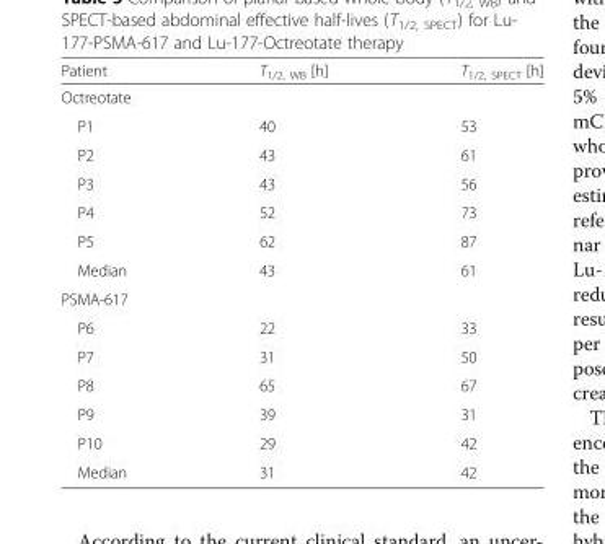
<table><thead><tr><td>Patient</td><td>T<sub>1/2, WB</sub> [h]</td><td>T<sub>1/2, SPECT</sub> [h]</td></tr></thead><tbody><tr><td colspan="3">Octreotate</td></tr><tr><td>P1</td><td>40</td><td>53</td></tr><tr><td>P2</td><td>43</td><td>61</td></tr><tr><td>P3</td><td>43</td><td>56</td></tr><tr><td>P4</td><td>52</td><td>73</td></tr><tr><td>P5</td><td>62</td><td>87</td></tr><tr><td>Median</td><td>43</td><td>61</td></tr><tr><td colspan="3">PSMA-617</td></tr><tr><td>P6</td><td>22</td><td>33</td></tr><tr><td>P7</td><td>31</td><td>50</td></tr><tr><td>P8</td><td>65</td><td>67</td></tr><tr><td>P9</td><td>39</td><td>31</td></tr><tr><td>P10</td><td>29</td><td>42</td></tr><tr><td>Median</td><td>31</td><td>42</td></tr></tbody></table>